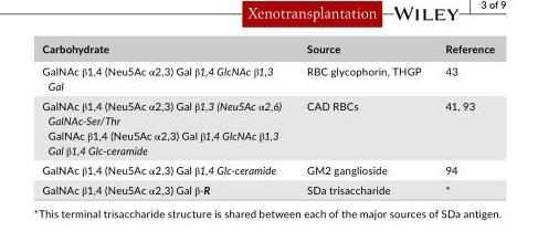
<table><thead><tr><td>Carbohydrate</td><td>Source</td><td>Reference</td></tr></thead><tbody><tr><td>GalNAc β1,4 (Neu5Ac α2,3) Gal β1,4 GlcNAc β1,3 Gal</td><td>RBC glycophorin, THGP</td><td>43</td></tr><tr><td>GalNAc β1,4 (Neu5Ac α2,3) Gal β1,3 (Neu5Ac α2,6) GalNAc-Ser/Thr GalNAc β1,4 (Neu5Ac α2,3) Gal β1,4 GlcNAc β1,3 Gal β1,4 Glc-ceramide</td><td>CAD RBCs</td><td>41, 93</td></tr><tr><td>GalNAc β1,4 (Neu5Ac α2,3) Gal β1,4 Glc-ceramide</td><td>GM2 ganglioside</td><td>94</td></tr><tr><td>GalNAc β1,4 (Neu5Ac α2,3) Gal β-R</td><td>SDa trisaccharide</td><td>*</td></tr></tbody></table>